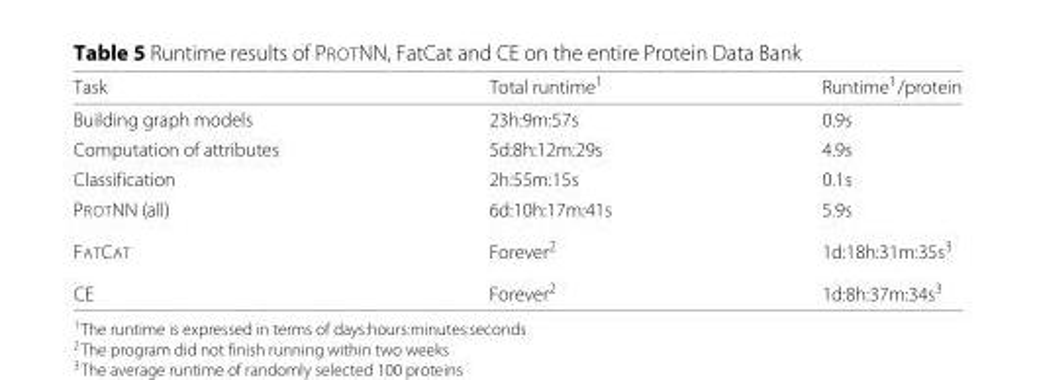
<table><thead><tr><td>Task</td><td>Total runtime<sup>1</sup></td><td>Runtime<sup>1</sup>/protein</td></tr></thead><tbody><tr><td>Building graph models</td><td>23h:9m:57s</td><td>0.9s</td></tr><tr><td>Computation of attributes</td><td>5d:8h:12m:29s</td><td>4.9s</td></tr><tr><td>Classification</td><td>2h:55m:15s</td><td>0.1s</td></tr><tr><td>PROTNN (all)</td><td>6d:10h:17m:41s</td><td>5.9s</td></tr><tr><td>FATCAT</td><td>Forever<sup>2</sup></td><td>1d:18h:31m:35s<sup>3</sup></td></tr><tr><td>CE</td><td>Forever<sup>2</sup></td><td>1d:8h:37m:34s<sup>3</sup></td></tr></tbody></table>